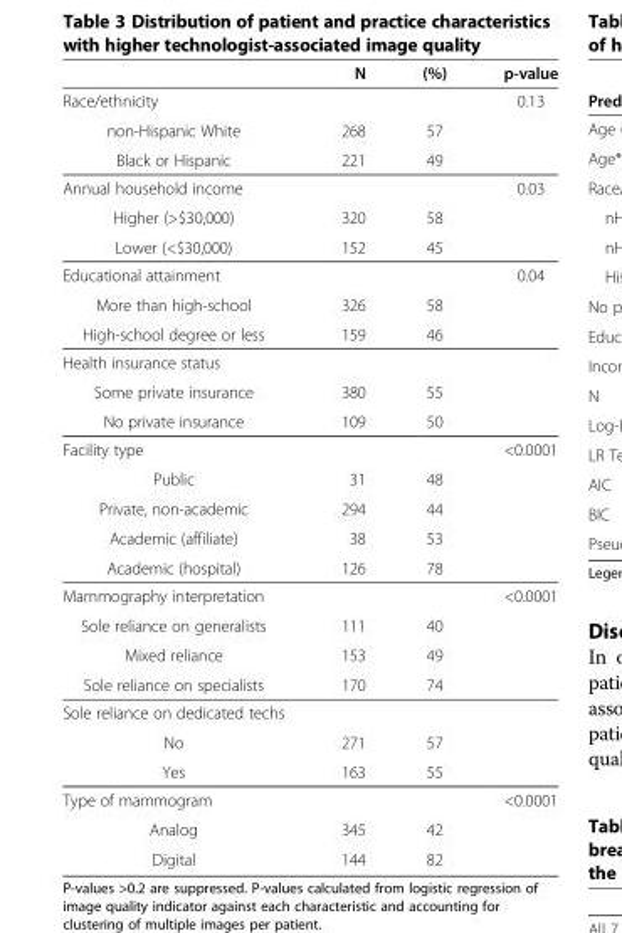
<table><thead><tr><td></td><td>N</td><td>(%)</td><td>p-value</td></tr></thead><tbody><tr><td>Race/ethnicity</td><td></td><td></td><td>0.13</td></tr><tr><td>non-Hispanic White</td><td>268</td><td>57</td><td></td></tr><tr><td>Black or Hispanic</td><td>221</td><td>49</td><td></td></tr><tr><td>Annual household income</td><td></td><td></td><td>0.03</td></tr><tr><td>Higher (&gt;$30,000)</td><td>320</td><td>58</td><td></td></tr><tr><td>Lower (&lt;$30,000)</td><td>152</td><td>45</td><td></td></tr><tr><td>Educational attainment</td><td></td><td></td><td>0.04</td></tr><tr><td>More than high-school</td><td>326</td><td>58</td><td></td></tr><tr><td>High-school degree or less</td><td>159</td><td>46</td><td></td></tr><tr><td colspan="4">Health insurance status</td></tr><tr><td>Some private insurance</td><td>380</td><td>55</td><td></td></tr><tr><td>No private insurance</td><td>109</td><td>50</td><td></td></tr><tr><td>Facility type</td><td></td><td></td><td>&lt;0.0001</td></tr><tr><td>Public</td><td>31</td><td>48</td><td></td></tr><tr><td>Private, non-academic</td><td>294</td><td>44</td><td></td></tr><tr><td>Academic (affiliate)</td><td>38</td><td>53</td><td></td></tr><tr><td>Academic (hospital)</td><td>126</td><td>78</td><td></td></tr><tr><td>Mammography interpretation</td><td></td><td></td><td>&lt;0.0001</td></tr><tr><td>Sole reliance on generalists</td><td>111</td><td>40</td><td></td></tr><tr><td>Mixed reliance</td><td>153</td><td>49</td><td></td></tr><tr><td>Sole reliance on specialists</td><td>170</td><td>74</td><td></td></tr><tr><td colspan="4">Sole reliance on dedicated techs</td></tr><tr><td>No</td><td>271</td><td>57</td><td></td></tr><tr><td>Yes</td><td>163</td><td>55</td><td></td></tr><tr><td>Type of mammogram</td><td></td><td></td><td>&lt;0.0001</td></tr><tr><td>Analog</td><td>345</td><td>42</td><td></td></tr><tr><td>Digital</td><td>144</td><td>82</td><td></td></tr></tbody></table>